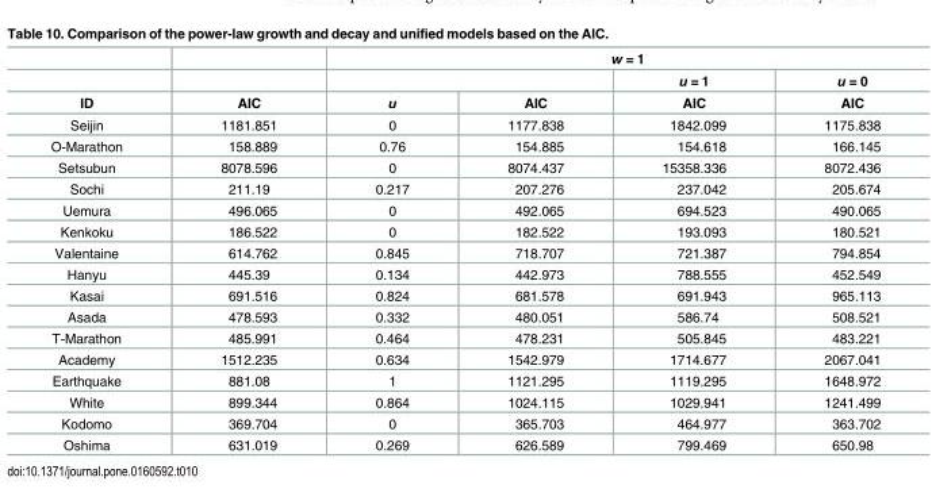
<table><thead><tr><td rowspan="3">ID</td><td rowspan="3">AIC</td><td colspan="4">w = 1</td></tr><tr><td rowspan="2">u</td><td rowspan="2">AIC</td><td rowspan="2">u = 1 AIC</td><td rowspan="2">u = 0 AIC</td></tr><tr></tr></thead><tbody><tr><td>Seijin</td><td>1181.851</td><td>0</td><td>1177.838</td><td>1842.099</td><td>1175.838</td></tr><tr><td>O-Marathon</td><td>158.889</td><td>0.76</td><td>154.885</td><td>154.618</td><td>166.145</td></tr><tr><td>Setsubun</td><td>8078.596</td><td>0</td><td>8074.437</td><td>15358.336</td><td>8072.436</td></tr><tr><td>Sochi</td><td>211.19</td><td>0.217</td><td>207.276</td><td>237.042</td><td>205.674</td></tr><tr><td>Uemura</td><td>496.065</td><td>0</td><td>492.065</td><td>694.523</td><td>490.065</td></tr><tr><td>Kenkoku</td><td>186.522</td><td>0</td><td>182.522</td><td>193.093</td><td>180.521</td></tr><tr><td>Valentaine</td><td>614.762</td><td>0.845</td><td>718.707</td><td>721.387</td><td>794.854</td></tr><tr><td>Hanyu</td><td>445.39</td><td>0.134</td><td>442.973</td><td>788.555</td><td>452.549</td></tr><tr><td>Kasai</td><td>691.516</td><td>0.824</td><td>681.578</td><td>691.943</td><td>965.113</td></tr><tr><td>Asada</td><td>478.593</td><td>0.332</td><td>480.051</td><td>586.74</td><td>508.521</td></tr><tr><td>T-Marathon</td><td>485.991</td><td>0.464</td><td>478.231</td><td>505.845</td><td>483.221</td></tr><tr><td>Academy</td><td>1512.235</td><td>0.634</td><td>1542.979</td><td>1714.677</td><td>2067.041</td></tr><tr><td>Earthquake</td><td>881.08</td><td>1</td><td>1121.295</td><td>1119.295</td><td>1648.972</td></tr><tr><td>White</td><td>899.344</td><td>0.864</td><td>1024.115</td><td>1029.941</td><td>1241.499</td></tr><tr><td>Kodomo</td><td>369.704</td><td>0</td><td>365.703</td><td>464.977</td><td>363.702</td></tr><tr><td>Oshima</td><td>631.019</td><td>0.269</td><td>626.589</td><td>799.469</td><td>650.98</td></tr></tbody></table>